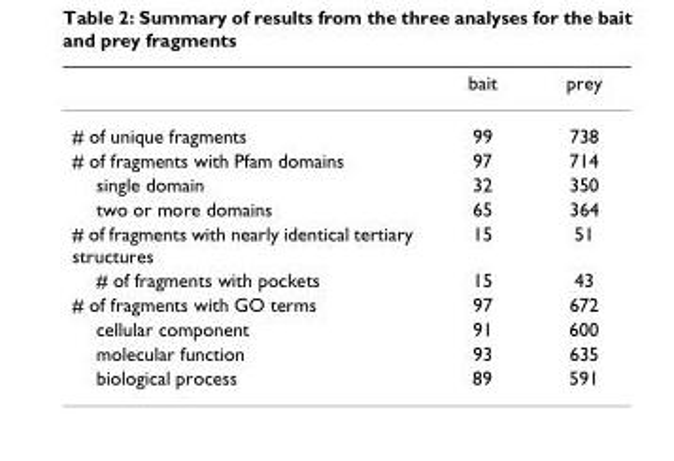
<table><thead><tr><td></td><td>bait</td><td>prey</td></tr></thead><tbody><tr><td># of unique fragments</td><td>99</td><td>738</td></tr><tr><td># of fragments with Pfam domains</td><td>97</td><td>714</td></tr><tr><td>single domain</td><td>32</td><td>350</td></tr><tr><td>two or more domains</td><td>65</td><td>364</td></tr><tr><td># of fragments with nearly identical tertiary structures</td><td>15</td><td>51</td></tr><tr><td># of fragments with pockets</td><td>15</td><td>43</td></tr><tr><td># of fragments with GO terms</td><td>97</td><td>672</td></tr><tr><td>cellular component</td><td>91</td><td>600</td></tr><tr><td>molecular function</td><td>93</td><td>635</td></tr><tr><td>biological process</td><td>89</td><td>591</td></tr></tbody></table>